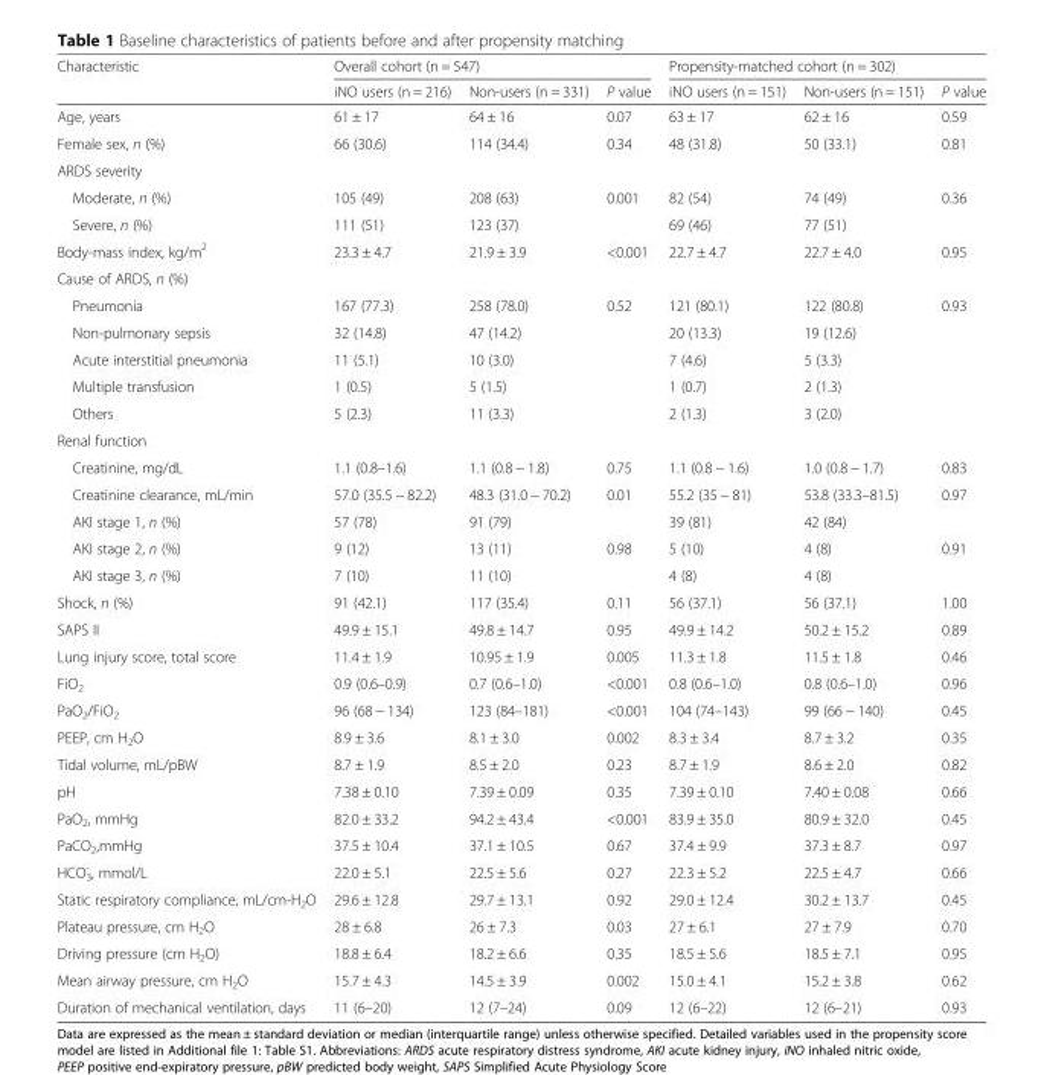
<table><thead><tr><td rowspan="2">Characteristic</td><td colspan="3">Overall cohort (n = 547)</td><td colspan="3">Propensity-matched cohort (n = 302)</td></tr><tr><td>iNO users (n = 216)</td><td>Non-users (n = 331)</td><td>P value</td><td>iNO users (n = 151)</td><td>Non-users (n = 151)</td><td>P value</td></tr></thead><tbody><tr><td>Age, years</td><td>61 ± 17</td><td>64 ± 16</td><td>0.07</td><td>63 ± 17</td><td>62 ± 16</td><td>0.59</td></tr><tr><td>Female sex, n (%)</td><td>66 (30.6)</td><td>114 (34.4)</td><td>0.34</td><td>48 (31.8)</td><td>50 (33.1)</td><td>0.81</td></tr><tr><td colspan="7">ARDS severity</td></tr><tr><td>Moderate, n (%)</td><td>105 (49)</td><td>208 (63)</td><td>0.001</td><td>82 (54)</td><td>74 (49)</td><td>0.36</td></tr><tr><td>Severe, n (%)</td><td>111 (51)</td><td>123 (37)</td><td></td><td>69 (46)</td><td>77 (51)</td><td></td></tr><tr><td>Body-mass index, kg/m<sup>2</sup></td><td>23.3 ± 4.7</td><td>21.9 ± 3.9</td><td>&lt;0.001</td><td>22.7 ± 4.7</td><td>22.7 ± 4.0</td><td>0.95</td></tr><tr><td colspan="7">Cause of ARDS, n (%)</td></tr><tr><td>Pneumonia</td><td>167 (77.3)</td><td>258 (78.0)</td><td rowspan="5">0.52</td><td>121 (80.1)</td><td>122 (80.8)</td><td rowspan="5">0.93</td></tr><tr><td>Non-pulmonary sepsis</td><td>32 (14.8)</td><td>47 (14.2)</td><td>20 (13.3)</td><td>19 (12.6)</td></tr><tr><td>Acute interstitial pneumonia</td><td>11 (5.1)</td><td>10 (3.0)</td><td>7 (4.6)</td><td>5 (3.3)</td></tr><tr><td>Multiple transfusion</td><td>1 (0.5)</td><td>5 (1.5)</td><td>1 (0.7)</td><td>2 (1.3)</td></tr><tr><td>Others</td><td>5 (2.3)</td><td>11 (3.3)</td><td>2 (1.3)</td><td>3 (2.0)</td></tr><tr><td colspan="7">Renal function</td></tr><tr><td>Creatinine, mg/dL</td><td>1.1 (0.8–1.6)</td><td>1.1 (0.8 − 1.8)</td><td>0.75</td><td>1.1 (0.8 − 1.6)</td><td>1.0 (0.8 − 1.7)</td><td>0.83</td></tr><tr><td>Creatinine clearance, mL/min</td><td>57.0 (35.5 − 82.2)</td><td>48.3 (31.0 − 70.2)</td><td>0.01</td><td>55.2 (35 − 81)</td><td>53.8 (33.3–81.5)</td><td>0.97</td></tr><tr><td>AKI stage 1, n (%)</td><td>57 (78)</td><td>91 (79)</td><td></td><td>39 (81)</td><td>42 (84)</td><td></td></tr><tr><td>AKI stage 2, n (%)</td><td>9 (12)</td><td>13 (11)</td><td>0.98</td><td>5 (10)</td><td>4 (8)</td><td>0.91</td></tr><tr><td>AKI stage 3, n (%)</td><td>7 (10)</td><td>11 (10)</td><td></td><td>4 (8)</td><td>4 (8)</td><td></td></tr><tr><td>Shock, n (%)</td><td>91 (42.1)</td><td>117 (35.4)</td><td>0.11</td><td>56 (37.1)</td><td>56 (37.1)</td><td>1.00</td></tr><tr><td>SAPS II</td><td>49.9 ± 15.1</td><td>49.8 ± 14.7</td><td>0.95</td><td>49.9 ± 14.2</td><td>50.2 ± 15.2</td><td>0.89</td></tr><tr><td>Lung injury score, total score</td><td>11.4 ± 1.9</td><td>10.95 ± 1.9</td><td>0.005</td><td>11.3 ± 1.8</td><td>11.5 ± 1.8</td><td>0.46</td></tr><tr><td>FiO<sub>2</sub></td><td>0.9 (0.6–0.9)</td><td>0.7 (0.6–1.0)</td><td>&lt;0.001</td><td>0.8 (0.6–1.0)</td><td>0.8 (0.6–1.0)</td><td>0.96</td></tr><tr><td>PaO<sub>2</sub>/FiO<sub>2</sub></td><td>96 (68 − 134)</td><td>123 (84–181)</td><td>&lt;0.001</td><td>104 (74–143)</td><td>99 (66 − 140)</td><td>0.45</td></tr><tr><td>PEEP, cm H<sub>2</sub>O</td><td>8.9 ± 3.6</td><td>8.1 ± 3.0</td><td>0.002</td><td>8.3 ± 3.4</td><td>8.7 ± 3.2</td><td>0.35</td></tr><tr><td>Tidal volume, mL/pBW</td><td>8.7 ± 1.9</td><td>8.5 ± 2.0</td><td>0.23</td><td>8.7 ± 1.9</td><td>8.6 ± 2.0</td><td>0.82</td></tr><tr><td>pH</td><td>7.38 ± 0.10</td><td>7.39 ± 0.09</td><td>0.35</td><td>7.39 ± 0.10</td><td>7.40 ± 0.08</td><td>0.66</td></tr><tr><td>PaO<sub>2</sub>, mmHg</td><td>82.0 ± 33.2</td><td>94.2 ± 43.4</td><td>&lt;0.001</td><td>83.9 ± 35.0</td><td>80.9 ± 32.0</td><td>0.45</td></tr><tr><td>PaCO<sub>2</sub>,mmHg</td><td>37.5 ± 10.4</td><td>37.1 ± 10.5</td><td>0.67</td><td>37.4 ± 9.9</td><td>37.3 ± 8.7</td><td>0.97</td></tr><tr><td>HCO<sub>3</sub> <sup>-</sup>, mmol/L</td><td>22.0 ± 5.1</td><td>22.5 ± 5.6</td><td>0.27</td><td>22.3 ± 5.2</td><td>22.5 ± 4.7</td><td>0.66</td></tr><tr><td>Static respiratory compliance, mL/cm-H<sub>2</sub>O</td><td>29.6 ± 12.8</td><td>29.7 ± 13.1</td><td>0.92</td><td>29.0 ± 12.4</td><td>30.2 ± 13.7</td><td>0.45</td></tr><tr><td>Plateau pressure, cm H<sub>2</sub>O</td><td>28 ± 6.8</td><td>26 ± 7.3</td><td>0.03</td><td>27 ± 6.1</td><td>27 ± 7.9</td><td>0.70</td></tr><tr><td>Driving pressure (cm H<sub>2</sub>O)</td><td>18.8 ± 6.4</td><td>18.2 ± 6.6</td><td>0.35</td><td>18.5 ± 5.6</td><td>18.5 ± 7.1</td><td>0.95</td></tr><tr><td>Mean airway pressure, cm H<sub>2</sub>O</td><td>15.7 ± 4.3</td><td>14.5 ± 3.9</td><td>0.002</td><td>15.0 ± 4.1</td><td>15.2 ± 3.8</td><td>0.62</td></tr><tr><td>Duration of mechanical ventilation, days</td><td>11 (6–20)</td><td>12 (7–24)</td><td>0.09</td><td>12 (6–22)</td><td>12 (6–21)</td><td>0.93</td></tr></tbody></table>